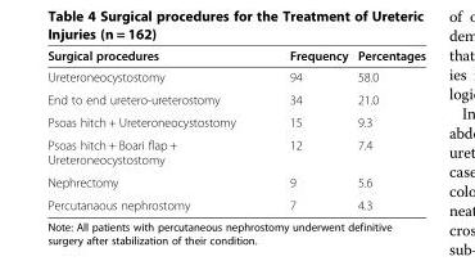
<table><thead><tr><td>Surgical procedures</td><td>Frequency</td><td>Percentages</td></tr></thead><tbody><tr><td>Ureteroneocystostomy</td><td>94</td><td>58.0</td></tr><tr><td>End to end uretero-ureterostomy</td><td>34</td><td>21.0</td></tr><tr><td>Psoas hitch + Ureteroneocystostomy</td><td>15</td><td>9.3</td></tr><tr><td>Psoas hitch + Boari flap + Ureteroneocystostomy</td><td>12</td><td>7.4</td></tr><tr><td>Nephrectomy</td><td>9</td><td>5.6</td></tr><tr><td>Percutanaous nephrostomy</td><td>7</td><td>4.3</td></tr></tbody></table>